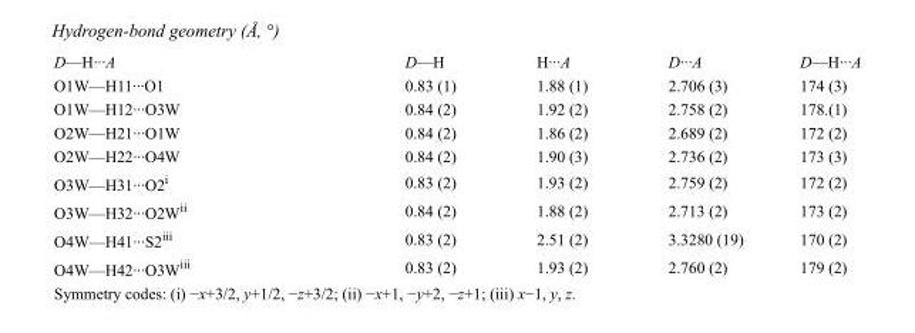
<table><tbody><tr><td>D—H···A</td><td>D—H</td><td>H···A</td><td>D···A</td><td>D—H···A</td></tr><tr><td>O1W—H11···O1</td><td>0.83 (1)</td><td>1.88 (1)</td><td>2.706 (3)</td><td>174 (3)</td></tr><tr><td>O1W—H12···O3W</td><td>0.84 (2)</td><td>1.92 (2)</td><td>2.758 (2)</td><td>178.(1)</td></tr><tr><td>O2W—H21···O1W</td><td>0.84 (2)</td><td>1.86 (2)</td><td>2.689 (2)</td><td>172 (2)</td></tr><tr><td>O2W—H22···O4W</td><td>0.84 (2)</td><td>1.90 (3)</td><td>2.736 (2)</td><td>173 (3)</td></tr><tr><td>O3W—H31···O2<sup>i</sup></td><td>0.83 (2)</td><td>1.93 (2)</td><td>2.759 (2)</td><td>172 (2)</td></tr><tr><td>O3W—H32···O2W<sup>ii</sup></td><td>0.84 (2)</td><td>1.88 (2)</td><td>2.713 (2)</td><td>173 (2)</td></tr><tr><td>O4W—H41···S2<sup>iii</sup></td><td>0.83 (2)</td><td>2.51 (2)</td><td>3.3280 (19)</td><td>170 (2)</td></tr><tr><td>O4W—H42···O3W<sup>iii</sup></td><td>0.83 (2)</td><td>1.93 (2)</td><td>2.760 (2)</td><td>179 (2)</td></tr></tbody></table>